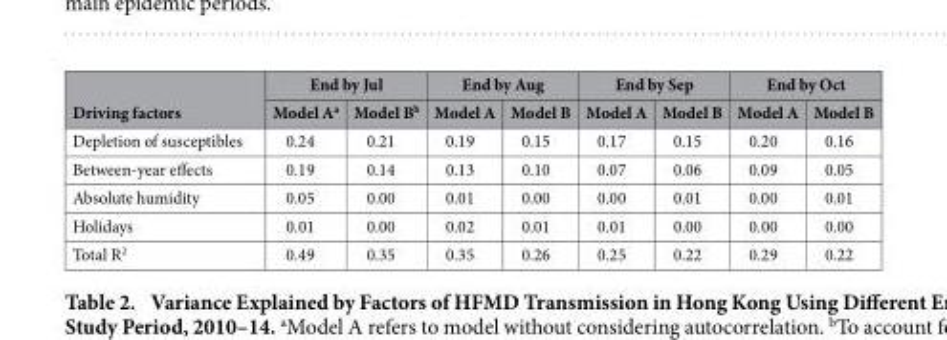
<table><thead><tr><td rowspan="2">Driving factors</td><td colspan="2">End by Jul</td><td colspan="2">End by Aug</td><td colspan="2">End by Sep</td><td colspan="2">End by Oct</td></tr><tr><td>Model A<sup>a</sup></td><td>Model B<sup>b</sup></td><td>Model A</td><td>Model B</td><td>Model A</td><td>Model B</td><td>Model A</td><td>Model B</td></tr></thead><tbody><tr><td>Depletion of susceptibles</td><td>0.24</td><td>0.21</td><td>0.19</td><td>0.15</td><td>0.17</td><td>0.15</td><td>0.20</td><td>0.16</td></tr><tr><td>Between-year effects</td><td>0.19</td><td>0.14</td><td>0.13</td><td>0.10</td><td>0.07</td><td>0.06</td><td>0.09</td><td>0.05</td></tr><tr><td>Absolute humidity</td><td>0.05</td><td>0.00</td><td>0.01</td><td>0.00</td><td>0.00</td><td>0.01</td><td>0.00</td><td>0.01</td></tr><tr><td>Holidays</td><td>0.01</td><td>0.00</td><td>0.02</td><td>0.01</td><td>0.01</td><td>0.00</td><td>0.00</td><td>0.00</td></tr><tr><td>Total R<sup>2</sup></td><td>0.49</td><td>0.35</td><td>0.35</td><td>0.26</td><td>0.25</td><td>0.22</td><td>0.29</td><td>0.22</td></tr></tbody></table>